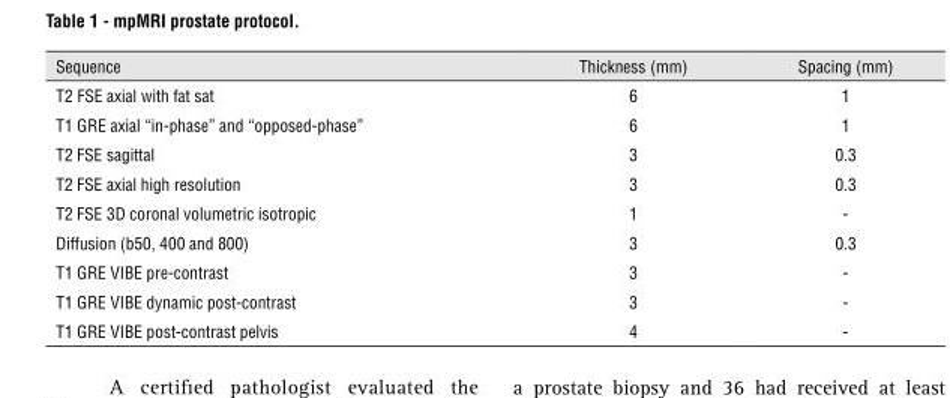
<table><thead><tr><td>Sequence</td><td>Thickness (mm)</td><td>Spacing (mm)</td></tr></thead><tbody><tr><td>T2 FSE axial with fat sat</td><td>6</td><td>1</td></tr><tr><td>T1 GRE axial “in-phase” and “opposed-phase”</td><td>6</td><td>1</td></tr><tr><td>T2 FSE sagittal</td><td>3</td><td>0.3</td></tr><tr><td>T2 FSE axial high resolution</td><td>3</td><td>0.3</td></tr><tr><td>T2 FSE 3D coronal volumetric isotropic</td><td>1</td><td>-</td></tr><tr><td>Diffusion (b50, 400 and 800)</td><td>3</td><td>0.3</td></tr><tr><td>T1 GRE VIBE pre-contrast</td><td>3</td><td>-</td></tr><tr><td>T1 GRE VIBE dynamic post-contrast</td><td>3</td><td>-</td></tr><tr><td>T1 GRE VIBE post-contrast pelvis</td><td>4</td><td>-</td></tr></tbody></table>